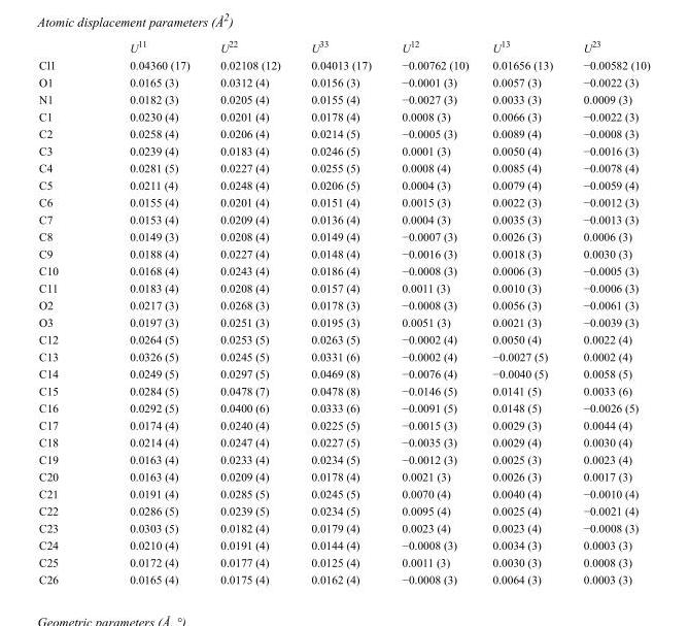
<table><thead><tr><td></td><td>U<sup>11</sup></td><td>U<sup>22</sup></td><td>U<sup>33</sup></td><td>U<sup>12</sup></td><td>U<sup>13</sup></td><td>U<sup>23</sup></td></tr></thead><tbody><tr><td>Cl1</td><td>0.04360 (17)</td><td>0.02108 (12)</td><td>0.04013 (17)</td><td>−0.00762 (10)</td><td>0.01656 (13)</td><td>−0.00582 (10)</td></tr><tr><td>O1</td><td>0.0165 (3)</td><td>0.0312 (4)</td><td>0.0156 (3)</td><td>−0.0001 (3)</td><td>0.0057 (3)</td><td>−0.0022 (3)</td></tr><tr><td>N1</td><td>0.0182 (3)</td><td>0.0205 (4)</td><td>0.0155 (4)</td><td>−0.0027 (3)</td><td>0.0033 (3)</td><td>0.0009 (3)</td></tr><tr><td>C1</td><td>0.0230 (4)</td><td>0.0201 (4)</td><td>0.0178 (4)</td><td>0.0008 (3)</td><td>0.0066 (3)</td><td>−0.0022 (3)</td></tr><tr><td>C2</td><td>0.0258 (4)</td><td>0.0206 (4)</td><td>0.0214 (5)</td><td>−0.0005 (3)</td><td>0.0089 (4)</td><td>−0.0008 (3)</td></tr><tr><td>C3</td><td>0.0239 (4)</td><td>0.0183 (4)</td><td>0.0246 (5)</td><td>0.0001 (3)</td><td>0.0050 (4)</td><td>−0.0016 (3)</td></tr><tr><td>C4</td><td>0.0281 (5)</td><td>0.0227 (4)</td><td>0.0255 (5)</td><td>0.0008 (4)</td><td>0.0085 (4)</td><td>−0.0078 (4)</td></tr><tr><td>C5</td><td>0.0211 (4)</td><td>0.0248 (4)</td><td>0.0206 (5)</td><td>0.0004 (3)</td><td>0.0079 (4)</td><td>−0.0059 (4)</td></tr><tr><td>C6</td><td>0.0155 (4)</td><td>0.0201 (4)</td><td>0.0151 (4)</td><td>0.0015 (3)</td><td>0.0022 (3)</td><td>−0.0012 (3)</td></tr><tr><td>C7</td><td>0.0153 (4)</td><td>0.0209 (4)</td><td>0.0136 (4)</td><td>0.0004 (3)</td><td>0.0035 (3)</td><td>−0.0013 (3)</td></tr><tr><td>C8</td><td>0.0149 (3)</td><td>0.0208 (4)</td><td>0.0149 (4)</td><td>−0.0007 (3)</td><td>0.0026 (3)</td><td>0.0006 (3)</td></tr><tr><td>C9</td><td>0.0188 (4)</td><td>0.0227 (4)</td><td>0.0148 (4)</td><td>−0.0016 (3)</td><td>0.0018 (3)</td><td>0.0030 (3)</td></tr><tr><td>C10</td><td>0.0168 (4)</td><td>0.0243 (4)</td><td>0.0186 (4)</td><td>−0.0008 (3)</td><td>0.0006 (3)</td><td>−0.0005 (3)</td></tr><tr><td>C11</td><td>0.0183 (4)</td><td>0.0208 (4)</td><td>0.0157 (4)</td><td>0.0011 (3)</td><td>0.0010 (3)</td><td>−0.0006 (3)</td></tr><tr><td>O2</td><td>0.0217 (3)</td><td>0.0268 (3)</td><td>0.0178 (3)</td><td>−0.0008 (3)</td><td>0.0056 (3)</td><td>−0.0061 (3)</td></tr><tr><td>O3</td><td>0.0197 (3)</td><td>0.0251 (3)</td><td>0.0195 (3)</td><td>0.0051 (3)</td><td>0.0021 (3)</td><td>−0.0039 (3)</td></tr><tr><td>C12</td><td>0.0264 (5)</td><td>0.0253 (5)</td><td>0.0263 (5)</td><td>−0.0002 (4)</td><td>0.0050 (4)</td><td>0.0022 (4)</td></tr><tr><td>C13</td><td>0.0326 (5)</td><td>0.0245 (5)</td><td>0.0331 (6)</td><td>−0.0002 (4)</td><td>−0.0027 (5)</td><td>0.0002 (4)</td></tr><tr><td>C14</td><td>0.0249 (5)</td><td>0.0297 (5)</td><td>0.0469 (8)</td><td>−0.0076 (4)</td><td>−0.0040 (5)</td><td>0.0058 (5)</td></tr><tr><td>C15</td><td>0.0284 (5)</td><td>0.0478 (7)</td><td>0.0478 (8)</td><td>−0.0146 (5)</td><td>0.0141 (5)</td><td>0.0033 (6)</td></tr><tr><td>C16</td><td>0.0292 (5)</td><td>0.0400 (6)</td><td>0.0333 (6)</td><td>−0.0091 (5)</td><td>0.0148 (5)</td><td>−0.0026 (5)</td></tr><tr><td>C17</td><td>0.0174 (4)</td><td>0.0240 (4)</td><td>0.0225 (5)</td><td>−0.0015 (3)</td><td>0.0029 (3)</td><td>0.0044 (4)</td></tr><tr><td>C18</td><td>0.0214 (4)</td><td>0.0247 (4)</td><td>0.0227 (5)</td><td>−0.0035 (3)</td><td>0.0029 (4)</td><td>0.0030 (4)</td></tr><tr><td>C19</td><td>0.0163 (4)</td><td>0.0233 (4)</td><td>0.0234 (5)</td><td>−0.0012 (3)</td><td>0.0025 (3)</td><td>0.0023 (4)</td></tr><tr><td>C20</td><td>0.0163 (4)</td><td>0.0209 (4)</td><td>0.0178 (4)</td><td>0.0021 (3)</td><td>0.0026 (3)</td><td>0.0017 (3)</td></tr><tr><td>C21</td><td>0.0191 (4)</td><td>0.0285 (5)</td><td>0.0245 (5)</td><td>0.0070 (4)</td><td>0.0040 (4)</td><td>−0.0010 (4)</td></tr><tr><td>C22</td><td>0.0286 (5)</td><td>0.0239 (5)</td><td>0.0234 (5)</td><td>0.0095 (4)</td><td>0.0025 (4)</td><td>−0.0021 (4)</td></tr><tr><td>C23</td><td>0.0303 (5)</td><td>0.0182 (4)</td><td>0.0179 (4)</td><td>0.0023 (4)</td><td>0.0023 (4)</td><td>−0.0008 (3)</td></tr><tr><td>C24</td><td>0.0210 (4)</td><td>0.0191 (4)</td><td>0.0144 (4)</td><td>−0.0008 (3)</td><td>0.0034 (3)</td><td>0.0003 (3)</td></tr><tr><td>C25</td><td>0.0172 (4)</td><td>0.0177 (4)</td><td>0.0125 (4)</td><td>0.0011 (3)</td><td>0.0030 (3)</td><td>0.0008 (3)</td></tr><tr><td>C26</td><td>0.0165 (4)</td><td>0.0175 (4)</td><td>0.0162 (4)</td><td>−0.0008 (3)</td><td>0.0064 (3)</td><td>0.0003 (3)</td></tr></tbody></table>